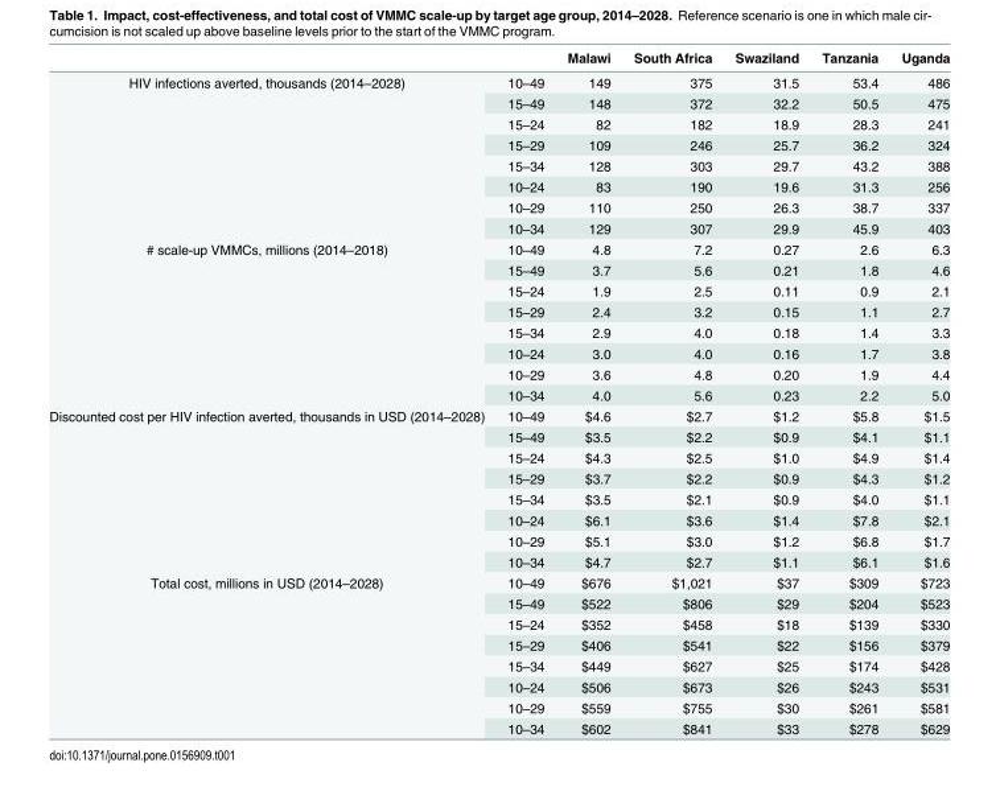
<table><thead><tr><td></td><td></td><td>Malawi</td><td>South Africa</td><td>Swaziland</td><td>Tanzania</td><td>Uganda</td></tr></thead><tbody><tr><td rowspan="8">HIV infections averted, thousands (2014–2028)</td><td>10–49</td><td>149</td><td>375</td><td>31.5</td><td>53.4</td><td>486</td></tr><tr><td>15–49</td><td>148</td><td>372</td><td>32.2</td><td>50.5</td><td>475</td></tr><tr><td>15–24</td><td>82</td><td>182</td><td>18.9</td><td>28.3</td><td>241</td></tr><tr><td>15–29</td><td>109</td><td>246</td><td>25.7</td><td>36.2</td><td>324</td></tr><tr><td>15–34</td><td>128</td><td>303</td><td>29.7</td><td>43.2</td><td>388</td></tr><tr><td>10–24</td><td>83</td><td>190</td><td>19.6</td><td>31.3</td><td>256</td></tr><tr><td>10–29</td><td>110</td><td>250</td><td>26.3</td><td>38.7</td><td>337</td></tr><tr><td>10–34</td><td>129</td><td>307</td><td>29.9</td><td>45.9</td><td>403</td></tr><tr><td rowspan="8"># scale-up VMMCs, millions (2014–2018)</td><td>10–49</td><td>4.8</td><td>7.2</td><td>0.27</td><td>2.6</td><td>6.3</td></tr><tr><td>15–49</td><td>3.7</td><td>5.6</td><td>0.21</td><td>1.8</td><td>4.6</td></tr><tr><td>15–24</td><td>1.9</td><td>2.5</td><td>0.11</td><td>0.9</td><td>2.1</td></tr><tr><td>15–29</td><td>2.4</td><td>3.2</td><td>0.15</td><td>1.1</td><td>2.7</td></tr><tr><td>15–34</td><td>2.9</td><td>4.0</td><td>0.18</td><td>1.4</td><td>3.3</td></tr><tr><td>10–24</td><td>3.0</td><td>4.0</td><td>0.16</td><td>1.7</td><td>3.8</td></tr><tr><td>10–29</td><td>3.6</td><td>4.8</td><td>0.20</td><td>1.9</td><td>4.4</td></tr><tr><td>10–34</td><td>4.0</td><td>5.6</td><td>0.23</td><td>2.2</td><td>5.0</td></tr><tr><td rowspan="8">Discounted cost per HIV infection averted, thousands in USD (2014–2028)</td><td>10–49</td><td>$4.6</td><td>$2.7</td><td>$1.2</td><td>$5.8</td><td>$1.5</td></tr><tr><td>15–49</td><td>$3.5</td><td>$2.2</td><td>$0.9</td><td>$4.1</td><td>$1.1</td></tr><tr><td>15–24</td><td>$4.3</td><td>$2.5</td><td>$1.0</td><td>$4.9</td><td>$1.4</td></tr><tr><td>15–29</td><td>$3.7</td><td>$2.2</td><td>$0.9</td><td>$4.3</td><td>$1.2</td></tr><tr><td>15–34</td><td>$3.5</td><td>$2.1</td><td>$0.9</td><td>$4.0</td><td>$1.1</td></tr><tr><td>10–24</td><td>$6.1</td><td>$3.6</td><td>$1.4</td><td>$7.8</td><td>$2.1</td></tr><tr><td>10–29</td><td>$5.1</td><td>$3.0</td><td>$1.2</td><td>$6.8</td><td>$1.7</td></tr><tr><td>10–34</td><td>$4.7</td><td>$2.7</td><td>$1.1</td><td>$6.1</td><td>$1.6</td></tr><tr><td rowspan="8">Total cost, millions in USD (2014–2028)</td><td>10–49</td><td>$676</td><td>$1,021</td><td>$37</td><td>$309</td><td>$723</td></tr><tr><td>15–49</td><td>$522</td><td>$806</td><td>$29</td><td>$204</td><td>$523</td></tr><tr><td>15–24</td><td>$352</td><td>$458</td><td>$18</td><td>$139</td><td>$330</td></tr><tr><td>15–29</td><td>$406</td><td>$541</td><td>$22</td><td>$156</td><td>$379</td></tr><tr><td>15–34</td><td>$449</td><td>$627</td><td>$25</td><td>$174</td><td>$428</td></tr><tr><td>10–24</td><td>$506</td><td>$673</td><td>$26</td><td>$243</td><td>$531</td></tr><tr><td>10–29</td><td>$559</td><td>$755</td><td>$30</td><td>$261</td><td>$581</td></tr><tr><td>10–34</td><td>$602</td><td>$841</td><td>$33</td><td>$278</td><td>$629</td></tr></tbody></table>